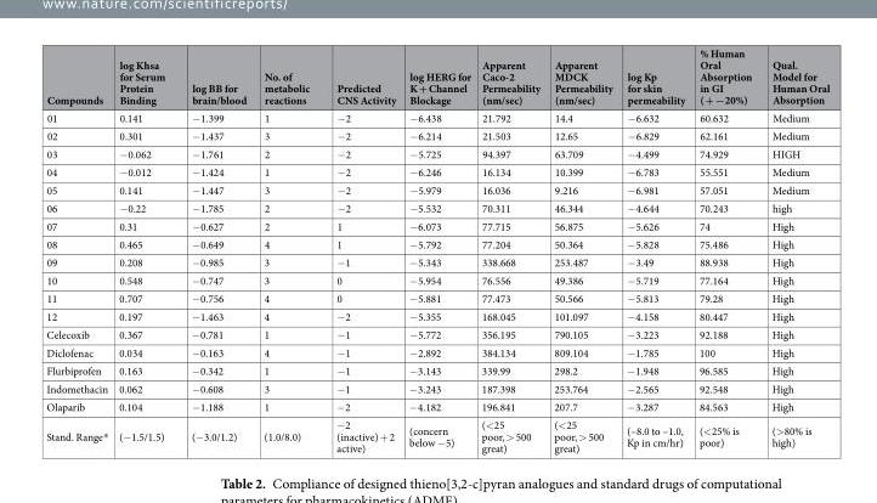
<table><thead><tr><td>Compounds</td><td>log Khsa for Serum Protein Binding</td><td>log BB for brain/blood</td><td>No. of metabolic reactions</td><td>Predicted CNS Activity</td><td>log HERG for K + Channel Blockage</td><td>Apparent Caco-2 Permeability (nm/sec)</td><td>Apparent MDCK Permeability (nm/sec)</td><td>log Kp for skin permeability</td><td>% Human Oral Absorption in GI ( + −20%)</td><td>Qual. Model for Human Oral Absorption</td></tr></thead><tbody><tr><td>01</td><td>0.141</td><td>−1.399</td><td>1</td><td>−2</td><td>−6.438</td><td>21.792</td><td>14.4</td><td>−6.632</td><td>60.632</td><td>Medium</td></tr><tr><td>02</td><td>0.301</td><td>−1.437</td><td>3</td><td>−2</td><td>−6.214</td><td>21.503</td><td>12.65</td><td>−6.829</td><td>62.161</td><td>Medium</td></tr><tr><td>03</td><td>−0.062</td><td>−1.761</td><td>2</td><td>−2</td><td>−5.725</td><td>94.397</td><td>63.709</td><td>−4.499</td><td>74.929</td><td>HIGH</td></tr><tr><td>04</td><td>−0.012</td><td>−1.424</td><td>1</td><td>−2</td><td>−6.246</td><td>16.134</td><td>10.399</td><td>−6.783</td><td>55.551</td><td>Medium</td></tr><tr><td>05</td><td>0.141</td><td>−1.447</td><td>3</td><td>−2</td><td>−5.979</td><td>16.036</td><td>9.216</td><td>−6.981</td><td>57.051</td><td>Medium</td></tr><tr><td>06</td><td>−0.22</td><td>−1.785</td><td>2</td><td>−2</td><td>−5.532</td><td>70.311</td><td>46.344</td><td>−4.644</td><td>70.243</td><td>high</td></tr><tr><td>07</td><td>0.31</td><td>−0.627</td><td>2</td><td>1</td><td>−6.073</td><td>77.715</td><td>56.875</td><td>−5.626</td><td>74</td><td>High</td></tr><tr><td>08</td><td>0.465</td><td>−0.649</td><td>4</td><td>1</td><td>−5.792</td><td>77.204</td><td>50.364</td><td>−5.828</td><td>75.486</td><td>High</td></tr><tr><td>09</td><td>0.208</td><td>−0.985</td><td>3</td><td>−1</td><td>−5.343</td><td>338.668</td><td>253.487</td><td>−3.49</td><td>88.938</td><td>High</td></tr><tr><td>10</td><td>0.548</td><td>−0.747</td><td>3</td><td>0</td><td>−5.954</td><td>76.556</td><td>49.386</td><td>−5.719</td><td>77.164</td><td>High</td></tr><tr><td>11</td><td>0.707</td><td>−0.756</td><td>4</td><td>0</td><td>−5.881</td><td>77.473</td><td>50.566</td><td>−5.813</td><td>79.28</td><td>High</td></tr><tr><td>12</td><td>0.197</td><td>−1.463</td><td>4</td><td>−2</td><td>−5.355</td><td>168.045</td><td>101.097</td><td>−4.158</td><td>80.447</td><td>High</td></tr><tr><td>Celecoxib</td><td>0.367</td><td>−0.781</td><td>1</td><td>−1</td><td>−5.772</td><td>356.195</td><td>790.105</td><td>−3.223</td><td>92.188</td><td>High</td></tr><tr><td>Diclofenac</td><td>0.034</td><td>−0.163</td><td>4</td><td>−1</td><td>−2.892</td><td>384.134</td><td>809.104</td><td>−1.785</td><td>100</td><td>High</td></tr><tr><td>Flurbiprofen</td><td>0.163</td><td>−0.342</td><td>1</td><td>−1</td><td>−3.143</td><td>339.99</td><td>298.2</td><td>−1.948</td><td>96.585</td><td>High</td></tr><tr><td>Indomethacin</td><td>0.062</td><td>−0.608</td><td>3</td><td>−1</td><td>−3.243</td><td>187.398</td><td>253.764</td><td>−2.565</td><td>92.548</td><td>High</td></tr><tr><td>Olaparib</td><td>0.104</td><td>−1.188</td><td>1</td><td>−2</td><td>−4.182</td><td>196.841</td><td>207.7</td><td>−3.287</td><td>84.563</td><td>High</td></tr><tr><td>Stand. Range*</td><td>(−1.5/1.5)</td><td>(−3.0/1.2)</td><td>(1.0/8.0)</td><td>−2 (inactive) + 2 active)</td><td>(concern below −5)</td><td>(&lt;25 poor, &gt; 500 great)</td><td>(&lt;25 poor, &gt; 500 great)</td><td>(–8.0 to –1.0, Kp in cm/hr)</td><td>(&lt;25% is poor)</td><td>(&gt;80% is high)</td></tr></tbody></table>